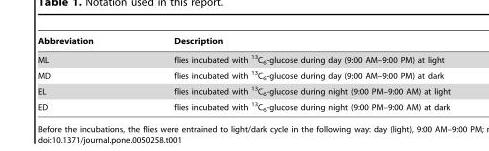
<table><thead><tr><td>Abbreviation</td><td>Description</td></tr></thead><tbody><tr><td>ML</td><td>flies incubated with <sup>13</sup>C<sub>6</sub>-glucose during day (9:00 AM–9:00 PM) at light</td></tr><tr><td>MD</td><td>flies incubated with <sup>13</sup>C<sub>6</sub>-glucose during day (9:00 AM–9:00 PM) at dark</td></tr><tr><td>EL</td><td>flies incubated with <sup>13</sup>C<sub>6</sub>-glucose during night (9:00 PM–9:00 AM) at light</td></tr><tr><td>ED</td><td>flies incubated with <sup>13</sup>C<sub>6</sub>-glucose during night (9:00 PM–9:00 AM) at dark</td></tr></tbody></table>